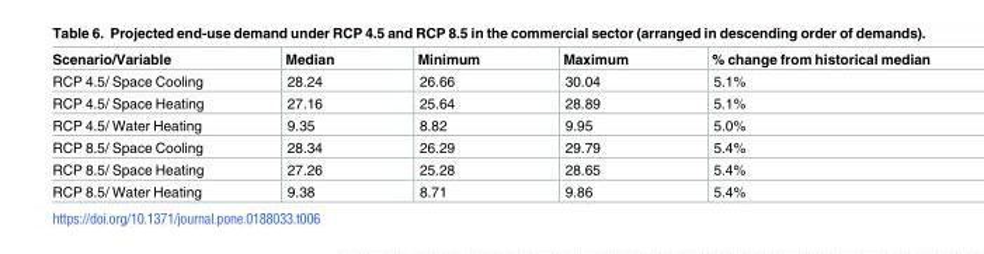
<table><thead><tr><td>Scenario/Variable</td><td>Median</td><td>Minimum</td><td>Maximum</td><td>% change from historical median</td></tr></thead><tbody><tr><td>RCP 4.5/ Space Cooling</td><td>28.24</td><td>26.66</td><td>30.04</td><td>5.1%</td></tr><tr><td>RCP 4.5/ Space Heating</td><td>27.16</td><td>25.64</td><td>28.89</td><td>5.1%</td></tr><tr><td>RCP 4.5/ Water Heating</td><td>9.35</td><td>8.82</td><td>9.95</td><td>5.0%</td></tr><tr><td>RCP 8.5/ Space Cooling</td><td>28.34</td><td>26.29</td><td>29.79</td><td>5.4%</td></tr><tr><td>RCP 8.5/ Space Heating</td><td>27.26</td><td>25.28</td><td>28.65</td><td>5.4%</td></tr><tr><td>RCP 8.5/ Water Heating</td><td>9.38</td><td>8.71</td><td>9.86</td><td>5.4%</td></tr></tbody></table>